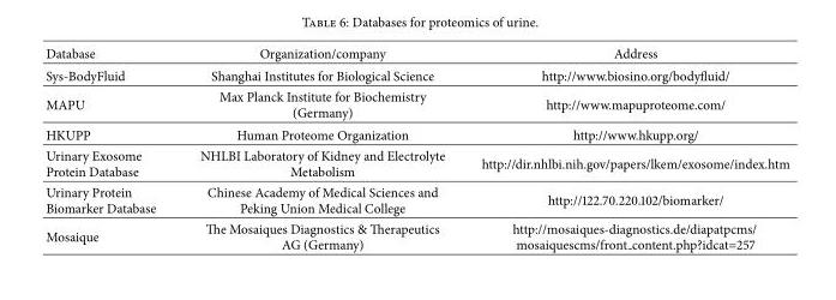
<table><thead><tr><td>Database</td><td>Organization/company</td><td>Address</td></tr></thead><tbody><tr><td>Sys-BodyFluid</td><td>Shanghai Institutes for Biological Science</td><td>http://www.biosino.org/bodyfluid/</td></tr><tr><td>MAPU</td><td>Max Planck Institute for Biochemistry (Germany)</td><td>http://www.mapuproteome.com/</td></tr><tr><td>HKUPP</td><td>Human Proteome Organization</td><td>http://www.hkupp.org/</td></tr><tr><td>Urinary Exosome Protein Database</td><td>NHLBI Laboratory of Kidney and Electrolyte Metabolism</td><td>http://dir.nhlbi.nih.gov/papers/lkem/exosome/index.htm</td></tr><tr><td>Urinary Protein Biomarker Database</td><td>Chinese Academy of Medical Sciences and Peking Union Medical College</td><td>http://122.70.220.102/biomarker/</td></tr><tr><td>Mosaique</td><td>The Mosaiques Diagnostics &amp; Therapeutics AG (Germany)</td><td>http://mosaiques-diagnostics.de/diapatpcms/ mosaiquescms/front content.php?idcat=257</td></tr></tbody></table>